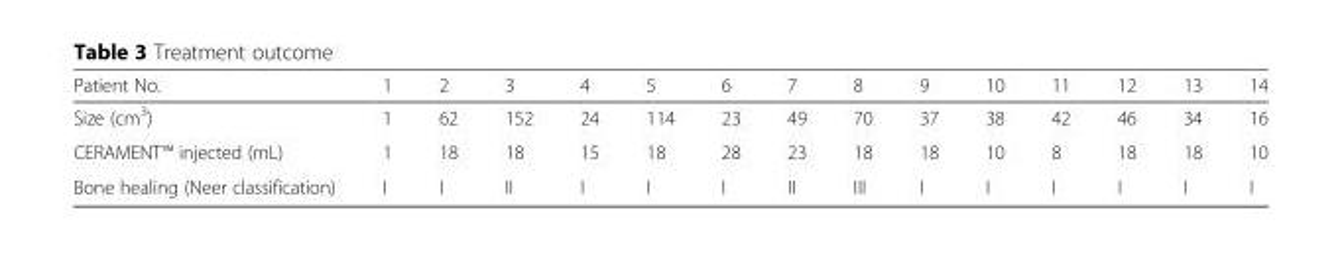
<table><thead><tr><td>Patient No.</td><td>1</td><td>2</td><td>3</td><td>4</td><td>5</td><td>6</td><td>7</td><td>8</td><td>9</td><td>10</td><td>11</td><td>12</td><td>13</td><td>14</td></tr></thead><tbody><tr><td>Size (cm<sup>3</sup>)</td><td>1</td><td>62</td><td>152</td><td>24</td><td>114</td><td>23</td><td>49</td><td>70</td><td>37</td><td>38</td><td>42</td><td>46</td><td>34</td><td>16</td></tr><tr><td>CERAMENT™ injected (mL)</td><td>1</td><td>18</td><td>18</td><td>15</td><td>18</td><td>28</td><td>23</td><td>18</td><td>18</td><td>10</td><td>8</td><td>18</td><td>18</td><td>10</td></tr><tr><td>Bone healing (Neer classification)</td><td>I</td><td>I</td><td>II</td><td>I</td><td>I</td><td>I</td><td>II</td><td>III</td><td>I</td><td>I</td><td>I</td><td>I</td><td>I</td><td>I</td></tr></tbody></table>